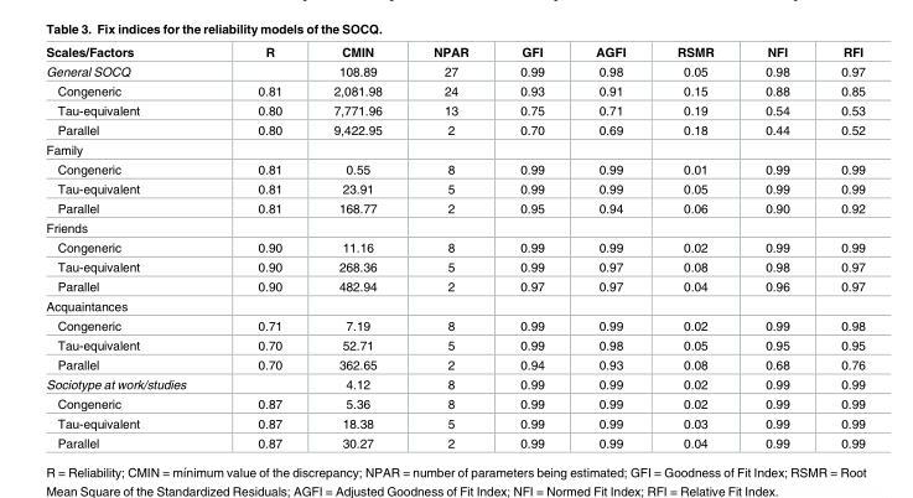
<table><thead><tr><td>Scales/Factors</td><td>R</td><td>CMIN</td><td>NPAR</td><td>GFI</td><td>AGFI</td><td>RSMR</td><td>NFI</td><td>RFI</td></tr></thead><tbody><tr><td>General SOCQ</td><td></td><td>108.89</td><td>27</td><td>0.99</td><td>0.98</td><td>0.05</td><td>0.98</td><td>0.97</td></tr><tr><td>Congeneric</td><td>0.81</td><td>2,081.98</td><td>24</td><td>0.93</td><td>0.91</td><td>0.15</td><td>0.88</td><td>0.85</td></tr><tr><td>Tau-equivalent</td><td>0.80</td><td>7,771.96</td><td>13</td><td>0.75</td><td>0.71</td><td>0.19</td><td>0.54</td><td>0.53</td></tr><tr><td>Parallel</td><td>0.80</td><td>9,422.95</td><td>2</td><td>0.70</td><td>0.69</td><td>0.18</td><td>0.44</td><td>0.52</td></tr><tr><td colspan="9">Family</td></tr><tr><td>Congeneric</td><td>0.81</td><td>0.55</td><td>8</td><td>0.99</td><td>0.99</td><td>0.01</td><td>0.99</td><td>0.99</td></tr><tr><td>Tau-equivalent</td><td>0.81</td><td>23.91</td><td>5</td><td>0.99</td><td>0.99</td><td>0.05</td><td>0.99</td><td>0.99</td></tr><tr><td>Parallel</td><td>0.81</td><td>168.77</td><td>2</td><td>0.95</td><td>0.94</td><td>0.06</td><td>0.90</td><td>0.92</td></tr><tr><td colspan="9">Friends</td></tr><tr><td>Congeneric</td><td>0.90</td><td>11.16</td><td>8</td><td>0.99</td><td>0.99</td><td>0.02</td><td>0.99</td><td>0.99</td></tr><tr><td>Tau-equivalent</td><td>0.90</td><td>268.36</td><td>5</td><td>0.99</td><td>0.97</td><td>0.08</td><td>0.98</td><td>0.97</td></tr><tr><td>Parallel</td><td>0.90</td><td>482.94</td><td>2</td><td>0.97</td><td>0.97</td><td>0.04</td><td>0.96</td><td>0.97</td></tr><tr><td colspan="9">Acquaintances</td></tr><tr><td>Congeneric</td><td>0.71</td><td>7.19</td><td>8</td><td>0.99</td><td>0.99</td><td>0.02</td><td>0.99</td><td>0.98</td></tr><tr><td>Tau-equivalent</td><td>0.70</td><td>52.71</td><td>5</td><td>0.99</td><td>0.98</td><td>0.05</td><td>0.95</td><td>0.95</td></tr><tr><td>Parallel</td><td>0.70</td><td>362.65</td><td>2</td><td>0.94</td><td>0.93</td><td>0.08</td><td>0.68</td><td>0.76</td></tr><tr><td>Sociotype at work/studies</td><td></td><td>4.12</td><td>8</td><td>0.99</td><td>0.99</td><td>0.02</td><td>0.99</td><td>0.99</td></tr><tr><td>Congeneric</td><td>0.87</td><td>5.36</td><td>8</td><td>0.99</td><td>0.99</td><td>0.02</td><td>0.99</td><td>0.99</td></tr><tr><td>Tau-equivalent</td><td>0.87</td><td>18.38</td><td>5</td><td>0.99</td><td>0.99</td><td>0.03</td><td>0.99</td><td>0.99</td></tr><tr><td>Parallel</td><td>0.87</td><td>30.27</td><td>2</td><td>0.99</td><td>0.99</td><td>0.04</td><td>0.99</td><td>0.99</td></tr></tbody></table>